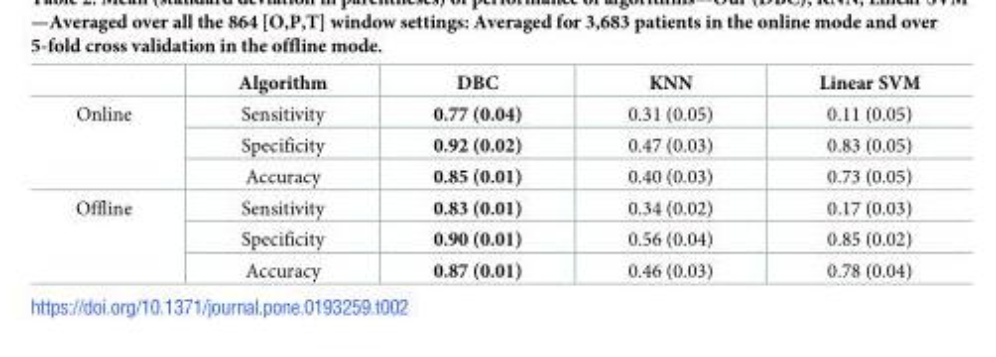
<table><thead><tr><td></td><td>Algorithm</td><td>DBC</td><td>KNN</td><td>Linear SVM</td></tr></thead><tbody><tr><td rowspan="3">Online</td><td>Sensitivity</td><td>0.77 (0.04)</td><td>0.31 (0.05)</td><td>0.11 (0.05)</td></tr><tr><td>Specificity</td><td>0.92 (0.02)</td><td>0.47 (0.03)</td><td>0.83 (0.05)</td></tr><tr><td>Accuracy</td><td>0.85 (0.01)</td><td>0.40 (0.03)</td><td>0.73 (0.05)</td></tr><tr><td rowspan="3">Offline</td><td>Sensitivity</td><td>0.83 (0.01)</td><td>0.34 (0.02)</td><td>0.17 (0.03)</td></tr><tr><td>Specificity</td><td>0.90 (0.01)</td><td>0.56 (0.04)</td><td>0.85 (0.02)</td></tr><tr><td>Accuracy</td><td>0.87 (0.01)</td><td>0.46 (0.03)</td><td>0.78 (0.04)</td></tr></tbody></table>